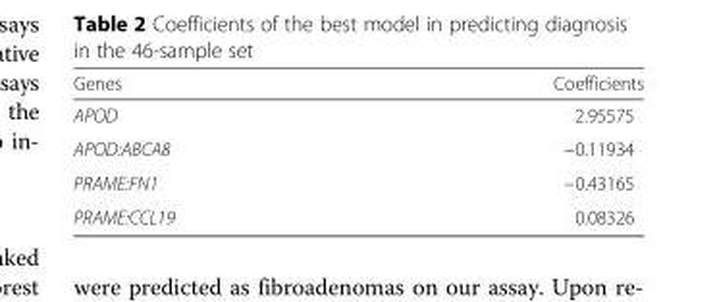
<table><thead><tr><td>Genes</td><td>Coefficients</td></tr></thead><tbody><tr><td>APOD</td><td>2.95575</td></tr><tr><td>APOD:ABCA8</td><td>−0.11934</td></tr><tr><td>PRAME:FN1</td><td>−0.43165</td></tr><tr><td>PRAME:CCL19</td><td>0.08326</td></tr></tbody></table>